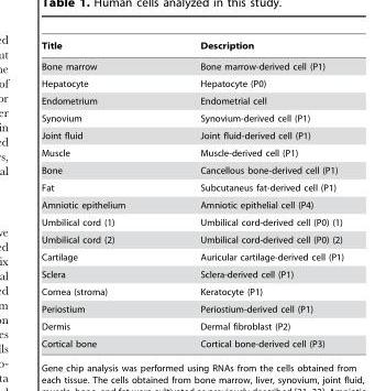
<table><thead><tr><td>Title</td><td>Description</td></tr></thead><tbody><tr><td>Bone marrow</td><td>Bone marrow-derived cell (P1)</td></tr><tr><td>Hepatocyte</td><td>Hepatocyte (P0)</td></tr><tr><td>Endometrium</td><td>Endometrial cell</td></tr><tr><td>Synovium</td><td>Synovium-derived cell (P1)</td></tr><tr><td>Joint fluid</td><td>Joint fluid-derived cell (P1)</td></tr><tr><td>Muscle</td><td>Muscle-derived cell (P1)</td></tr><tr><td>Bone</td><td>Cancellous bone-derived cell (P1)</td></tr><tr><td>Fat</td><td>Subcutaneus fat-derived cell (P1)</td></tr><tr><td>Amniotic epithelium</td><td>Amniotic epithelial cell (P4)</td></tr><tr><td>Umbilical cord (1)</td><td>Umbilical cord-derived cell (P0) (1)</td></tr><tr><td>Umbilical cord (2)</td><td>Umbilical cord-derived cell (P0) (2)</td></tr><tr><td>Cartilage</td><td>Auricular cartilage-derived cell (P1)</td></tr><tr><td>Sclera</td><td>Sclera-derived cell (P1)</td></tr><tr><td>Cornea (stroma)</td><td>Keratocyte (P1)</td></tr><tr><td>Periostium</td><td>Periostium-derived cell (P1)</td></tr><tr><td>Dermis</td><td>Dermal fibroblast (P2)</td></tr><tr><td>Cortical bone</td><td>Cortical bone-derived cell (P3)</td></tr></tbody></table>